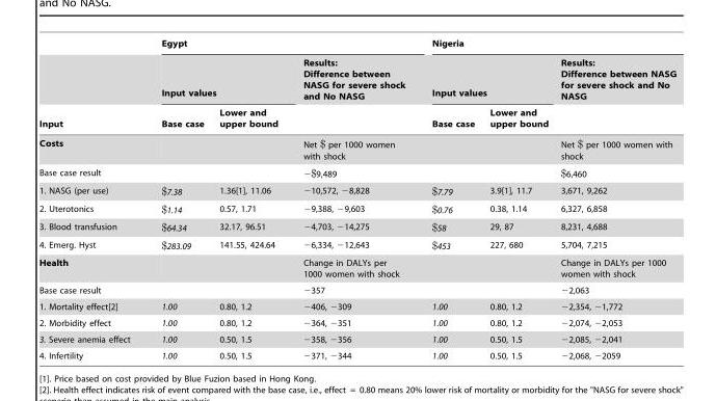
<table><thead><tr><td rowspan="3">Input</td><td colspan="3">Egypt</td><td colspan="3">Nigeria</td></tr><tr><td colspan="2">Input values</td><td rowspan="2">Results: Difference between NASG for severe shock and No NASG</td><td colspan="2">Input values</td><td rowspan="2">Results: Difference between NASG for severe shock and No NASG</td></tr><tr><td>Base case</td><td>Lower and upper bound</td><td>Base case</td><td>Lower and upper bound</td></tr></thead><tbody><tr><td>Costs</td><td colspan="2"></td><td>Net $ per 1000 women with shock</td><td colspan="2"></td><td>Net $ per 1000 women with shock</td></tr><tr><td>Base case result</td><td></td><td></td><td>−$9,489</td><td></td><td></td><td>$6,460</td></tr><tr><td>1. NASG (per use)</td><td>$7.38</td><td>1.36[1], 11.06</td><td>−10,572, −8,828</td><td>$7.79</td><td>3.9[1], 11.7</td><td>3,671, 9,262</td></tr><tr><td>2. Uterotonics</td><td>$1.14</td><td>0.57, 1.71</td><td>−9,388, −9,603</td><td>$0.76</td><td>0.38, 1.14</td><td>6,327, 6,858</td></tr><tr><td>3. Blood transfusion</td><td>$64.34</td><td>32.17, 96.51</td><td>−4,703, −14,275</td><td>$58</td><td>29, 87</td><td>8,231, 4,688</td></tr><tr><td>4. Emerg. Hyst</td><td>$283.09</td><td>141.55, 424.64</td><td>−6,334, −12,643</td><td>$453</td><td>227, 680</td><td>5,704, 7,215</td></tr><tr><td>Health</td><td colspan="2"></td><td>Change in DALYs per 1000 women with shock</td><td colspan="2"></td><td>Change in DALYs per 1000 women with shock</td></tr><tr><td>Base case result</td><td colspan="2"></td><td>−357</td><td colspan="2"></td><td>−2,063</td></tr><tr><td>1. Mortality effect[2]</td><td>1.00</td><td>0.80, 1.2</td><td>−406, −309</td><td>1.00</td><td>0.80, 1.2</td><td>−2,354, −1,772</td></tr><tr><td>2. Morbidity effect</td><td>1.00</td><td>0.80, 1.2</td><td>−364, −351</td><td>1.00</td><td>0.80, 1.2</td><td>−2,074, −2,053</td></tr><tr><td>3. Severe anemia effect</td><td>1.00</td><td>0.50, 1.5</td><td>−358, −356</td><td>1.00</td><td>0.50, 1.5</td><td>−2,085, −2,041</td></tr><tr><td>4. Infertility</td><td>1.00</td><td>0.50, 1.5</td><td>−371, −344</td><td>1.00</td><td>0.50, 1.5</td><td>−2,068, −2059</td></tr></tbody></table>